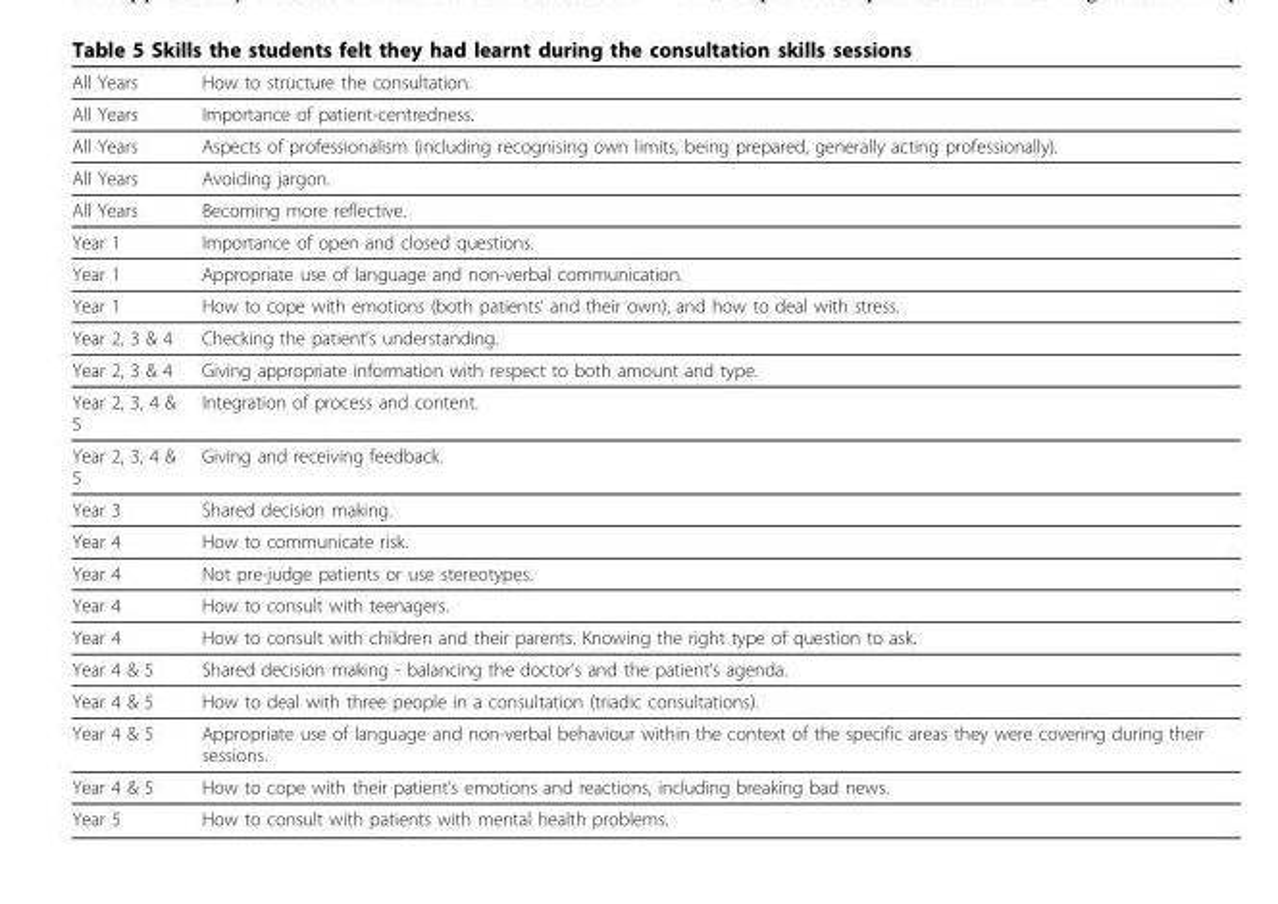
<table><thead><tr><td>All Years</td><td>How to structure the consultation.</td></tr></thead><tbody><tr><td>All Years</td><td>Importance of patient-centredness.</td></tr><tr><td>All Years</td><td>Aspects of professionalism (including recognising own limits, being prepared, generally acting professionally).</td></tr><tr><td>All Years</td><td>Avoiding jargon.</td></tr><tr><td>All Years</td><td>Becoming more reflective.</td></tr><tr><td>Year 1</td><td>Importance of open and closed questions.</td></tr><tr><td>Year 1</td><td>Appropriate use of language and non-verbal communication.</td></tr><tr><td>Year 1</td><td>How to cope with emotions (both patients’ and their own), and how to deal with stress.</td></tr><tr><td>Year 2, 3 &amp; 4</td><td>Checking the patient’s understanding.</td></tr><tr><td>Year 2, 3 &amp; 4</td><td>Giving appropriate information with respect to both amount and type.</td></tr><tr><td>Year 2, 3, 4 &amp; 5</td><td>Integration of process and content.</td></tr><tr><td>Year 2, 3, 4 &amp; 5</td><td>Giving and receiving feedback.</td></tr><tr><td>Year 3</td><td>Shared decision making.</td></tr><tr><td>Year 4</td><td>How to communicate risk.</td></tr><tr><td>Year 4</td><td>Not pre-judge patients or use stereotypes.</td></tr><tr><td>Year 4</td><td>How to consult with teenagers.</td></tr><tr><td>Year 4</td><td>How to consult with children and their parents. Knowing the right type of question to ask.</td></tr><tr><td>Year 4 &amp; 5</td><td>Shared decision making - balancing the doctor’s and the patient’s agenda.</td></tr><tr><td>Year 4 &amp; 5</td><td>How to deal with three people in a consultation (triadic consultations).</td></tr><tr><td>Year 4 &amp; 5</td><td>Appropriate use of language and non-verbal behaviour within the context of the specific areas they were covering during their sessions.</td></tr><tr><td>Year 4 &amp; 5</td><td>How to cope with their patient’s emotions and reactions, including breaking bad news.</td></tr><tr><td>Year 5</td><td>How to consult with patients with mental health problems.</td></tr></tbody></table>